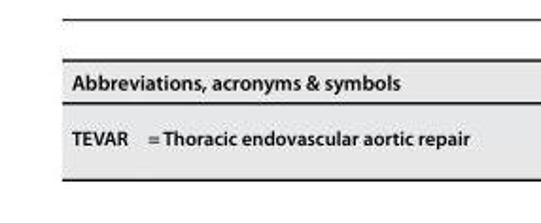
<table><thead><tr><td colspan="2">Abbreviations, acronyms &amp; symbols</td></tr><tr><td>TEVAR</td><td>= Thoracic endovascular aortic repair</td></tr></thead><tbody></tbody></table>